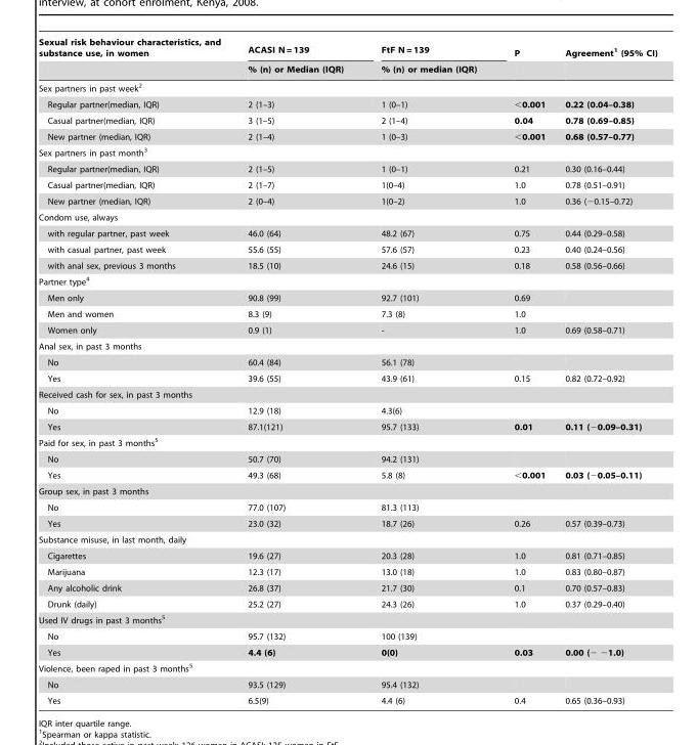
<table><thead><tr><td rowspan="2">Sexual risk behaviour characteristics, and substance use, in women</td><td rowspan="2">ACASI N = 139 % (n) or Median (IQR)</td><td rowspan="2">FtF N = 139 % (n) or median (IQR)</td><td rowspan="2">P</td><td rowspan="2">Agreement<sup>1</sup> (95% CI)</td></tr><tr></tr></thead><tbody><tr><td colspan="5">Sex partners in past week<sup>2</sup></td></tr><tr><td>Regular partner(median, IQR)</td><td>2 (1–3)</td><td>1 (0–1)</td><td>&lt;0.001</td><td>0.22 (0.04–0.38)</td></tr><tr><td>Casual partner(median, IQR)</td><td>3 (1–5)</td><td>2 (1–4)</td><td>0.04</td><td>0.78 (0.69–0.85)</td></tr><tr><td>New partner (median, IQR)</td><td>2 (1–4)</td><td>1 (0–3)</td><td>&lt;0.001</td><td>0.68 (0.57–0.77)</td></tr><tr><td colspan="5">Sex partners in past month<sup>3</sup></td></tr><tr><td>Regular partner(median, IQR)</td><td>2 (1–5)</td><td>1 (0–1)</td><td>0.21</td><td>0.30 (0.16–0.44)</td></tr><tr><td>Casual partner(median, IQR)</td><td>2 (1–7)</td><td>1(0–4)</td><td>1.0</td><td>0.78 (0.51–0.91)</td></tr><tr><td>New partner (median, IQR)</td><td>2 (0–4)</td><td>1(0–2)</td><td>1.0</td><td>0.36 (−0.15–0.72)</td></tr><tr><td colspan="5">Condom use, always</td></tr><tr><td>with regular partner, past week</td><td>46.0 (64)</td><td>48.2 (67)</td><td>0.75</td><td>0.44 (0.29–0.58)</td></tr><tr><td>with casual partner, past week</td><td>55.6 (55)</td><td>57.6 (57)</td><td>0.23</td><td>0.40 (0.24–0.56)</td></tr><tr><td>with anal sex, previous 3 months</td><td>18.5 (10)</td><td>24.6 (15)</td><td>0.18</td><td>0.58 (0.56–0.66)</td></tr><tr><td colspan="5">Partner type<sup>4</sup></td></tr><tr><td>Men only</td><td>90.8 (99)</td><td>92.7 (101)</td><td>0.69</td><td></td></tr><tr><td>Men and women</td><td>8.3 (9)</td><td>7.3 (8)</td><td>1.0</td><td></td></tr><tr><td>Women only</td><td>0.9 (1)</td><td>-</td><td>1.0</td><td>0.69 (0.58–0.71)</td></tr><tr><td colspan="5">Anal sex, in past 3 months</td></tr><tr><td>No</td><td>60.4 (84)</td><td>56.1 (78)</td><td></td><td></td></tr><tr><td>Yes</td><td>39.6 (55)</td><td>43.9 (61)</td><td>0.15</td><td>0.82 (0.72–0.92)</td></tr><tr><td colspan="5">Received cash for sex, in past 3 months</td></tr><tr><td>No</td><td>12.9 (18)</td><td>4.3(6)</td><td></td><td></td></tr><tr><td>Yes</td><td>87.1(121)</td><td>95.7 (133)</td><td>0.01</td><td>0.11 (−0.09–0.31)</td></tr><tr><td colspan="5">Paid for sex, in past 3 months<sup>5</sup></td></tr><tr><td>No</td><td>50.7 (70)</td><td>94.2 (131)</td><td></td><td></td></tr><tr><td>Yes</td><td>49.3 (68)</td><td>5.8 (8)</td><td>&lt;0.001</td><td>0.03 (−0.05–0.11)</td></tr><tr><td colspan="5">Group sex, in past 3 months</td></tr><tr><td>No</td><td>77.0 (107)</td><td>81.3 (113)</td><td></td><td></td></tr><tr><td>Yes</td><td>23.0 (32)</td><td>18.7 (26)</td><td>0.26</td><td>0.57 (0.39–0.73)</td></tr><tr><td colspan="5">Substance misuse, in last month, daily</td></tr><tr><td>Cigarettes</td><td>19.6 (27)</td><td>20.3 (28)</td><td>1.0</td><td>0.81 (0.71–0.85)</td></tr><tr><td>Marijuana</td><td>12.3 (17)</td><td>13.0 (18)</td><td>1.0</td><td>0.83 (0.80–0.87)</td></tr><tr><td>Any alcoholic drink</td><td>26.8 (37)</td><td>21.7 (30)</td><td>0.1</td><td>0.70 (0.57–0.83)</td></tr><tr><td>Drunk (daily)</td><td>25.2 (27)</td><td>24.3 (26)</td><td>1.0</td><td>0.37 (0.29–0.40)</td></tr><tr><td colspan="5">Used IV drugs in past 3 months<sup>5</sup></td></tr><tr><td>No</td><td>95.7 (132)</td><td>100 (139)</td><td></td><td></td></tr><tr><td>Yes</td><td>4.4 (6)</td><td>0(0)</td><td>0.03</td><td>0.00 (− −1.0)</td></tr><tr><td colspan="5">Violence, been raped in past 3 months<sup>5</sup></td></tr><tr><td>No</td><td>93.5 (129)</td><td>95.4 (132)</td><td></td><td></td></tr><tr><td>Yes</td><td>6.5(9)</td><td>4.4 (6)</td><td>0.4</td><td>0.65 (0.36–0.93)</td></tr></tbody></table>